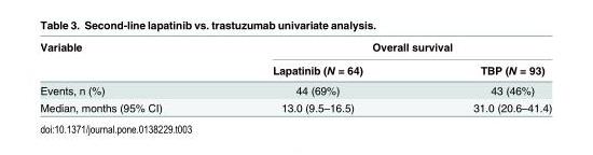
<table><thead><tr><td rowspan="2">Variable</td><td colspan="2">Overall survival</td></tr><tr><td>Lapatinib (N = 64)</td><td>TBP (N = 93)</td></tr></thead><tbody><tr><td>Events, n (%)</td><td>44 (69%)</td><td>43 (46%)</td></tr><tr><td>Median, months (95% CI)</td><td>13.0 (9.5–16.5)</td><td>31.0 (20.6–41.4)</td></tr></tbody></table>